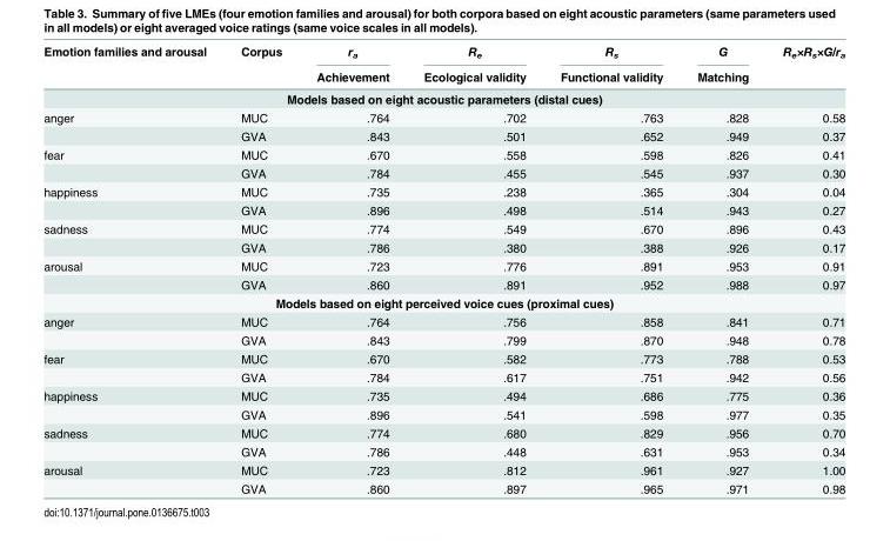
<table><thead><tr><td rowspan="2">Emotion families and arousal</td><td rowspan="2">Corpus</td><td rowspan="2">r<sub>a</sub> Achievement</td><td rowspan="2">R<sub>e</sub> Ecological validity</td><td rowspan="2">R<sub>s</sub> Functional validity</td><td rowspan="2">G Matching</td><td rowspan="2">R<sub>e</sub>×R<sub>s</sub>×G/r<sub>a</sub></td></tr><tr></tr></thead><tbody><tr><td colspan="7">Models based on eight acoustic parameters (distal cues)</td></tr><tr><td rowspan="2">anger</td><td>MUC</td><td>.764</td><td>.702</td><td>.763</td><td>.828</td><td>0.58</td></tr><tr><td>GVA</td><td>.843</td><td>.501</td><td>.652</td><td>.949</td><td>0.37</td></tr><tr><td rowspan="2">fear</td><td>MUC</td><td>.670</td><td>.558</td><td>.598</td><td>.826</td><td>0.41</td></tr><tr><td>GVA</td><td>.784</td><td>.455</td><td>.545</td><td>.937</td><td>0.30</td></tr><tr><td rowspan="2">happiness</td><td>MUC</td><td>.735</td><td>.238</td><td>.365</td><td>.304</td><td>0.04</td></tr><tr><td>GVA</td><td>.896</td><td>.498</td><td>.514</td><td>.943</td><td>0.27</td></tr><tr><td rowspan="2">sadness</td><td>MUC</td><td>.774</td><td>.549</td><td>.670</td><td>.896</td><td>0.43</td></tr><tr><td>GVA</td><td>.786</td><td>.380</td><td>.388</td><td>.926</td><td>0.17</td></tr><tr><td rowspan="2">arousal</td><td>MUC</td><td>.723</td><td>.776</td><td>.891</td><td>.953</td><td>0.91</td></tr><tr><td>GVA</td><td>.860</td><td>.891</td><td>.952</td><td>.988</td><td>0.97</td></tr><tr><td colspan="7">Models based on eight perceived voice cues (proximal cues)</td></tr><tr><td rowspan="2">anger</td><td>MUC</td><td>.764</td><td>.756</td><td>.858</td><td>.841</td><td>0.71</td></tr><tr><td>GVA</td><td>.843</td><td>.799</td><td>.870</td><td>.948</td><td>0.78</td></tr><tr><td rowspan="2">fear</td><td>MUC</td><td>.670</td><td>.582</td><td>.773</td><td>.788</td><td>0.53</td></tr><tr><td>GVA</td><td>.784</td><td>.617</td><td>.751</td><td>.942</td><td>0.56</td></tr><tr><td rowspan="2">happiness</td><td>MUC</td><td>.735</td><td>.494</td><td>.686</td><td>.775</td><td>0.36</td></tr><tr><td>GVA</td><td>.896</td><td>.541</td><td>.598</td><td>.977</td><td>0.35</td></tr><tr><td rowspan="2">sadness</td><td>MUC</td><td>.774</td><td>.680</td><td>.829</td><td>.956</td><td>0.70</td></tr><tr><td>GVA</td><td>.786</td><td>.448</td><td>.631</td><td>.953</td><td>0.34</td></tr><tr><td rowspan="2">arousal</td><td>MUC</td><td>.723</td><td>.812</td><td>.961</td><td>.927</td><td>1.00</td></tr><tr><td>GVA</td><td>.860</td><td>.897</td><td>.965</td><td>.971</td><td>0.98</td></tr></tbody></table>